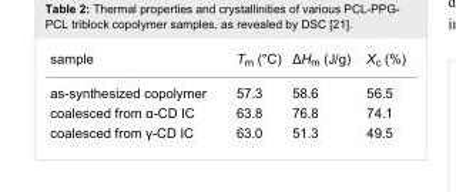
<table><tbody><tr><td>sample</td><td>T<sub>m</sub> (°C)</td><td>ΔH<sub>m</sub> (J/g)</td><td>Χ<sub>c</sub> (%)</td></tr><tr><td>as-synthesized copolymer</td><td>57.3</td><td>58.6</td><td>56.5</td></tr><tr><td>coalesced from α-CD IC</td><td>63.8</td><td>76.8</td><td>74.1</td></tr><tr><td>coalesced from γ-CD IC</td><td>63.0</td><td>51.3</td><td>49.5</td></tr></tbody></table>